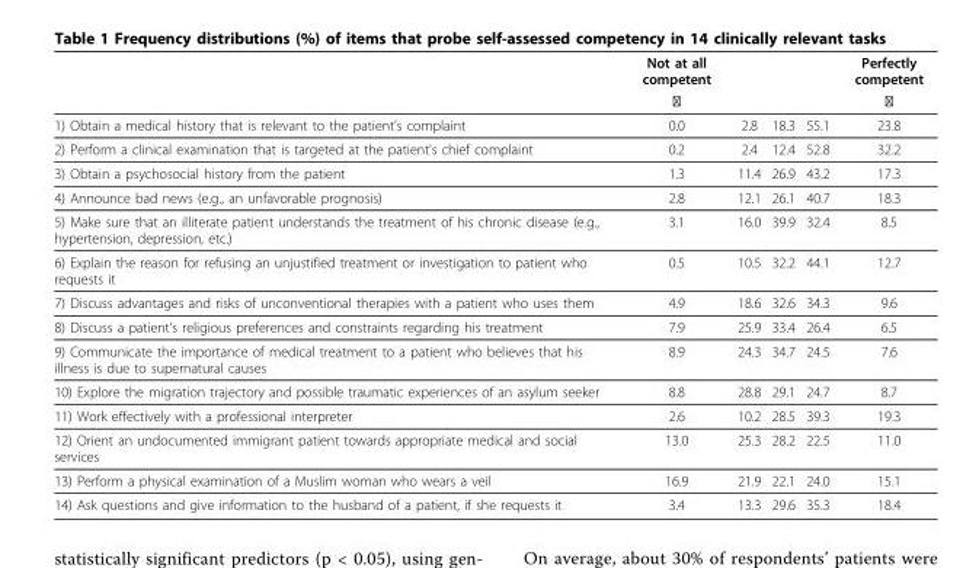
<table><thead><tr><td rowspan="2"></td><td rowspan="2">Not at all competent ⌄</td><td rowspan="2"></td><td rowspan="2"></td><td rowspan="2"></td><td rowspan="2">Perfectly competent ⌄</td></tr><tr></tr></thead><tbody><tr><td>1) Obtain a medical history that is relevant to the patient’s complaint</td><td>0.0</td><td>2.8</td><td>18.3</td><td>55.1</td><td>23.8</td></tr><tr><td>2) Perform a clinical examination that is targeted at the patient’s chief complaint</td><td>0.2</td><td>2.4</td><td>12.4</td><td>52.8</td><td>32.2</td></tr><tr><td>3) Obtain a psychosocial history from the patient</td><td>1.3</td><td>11.4</td><td>26.9</td><td>43.2</td><td>17.3</td></tr><tr><td>4) Announce bad news (e.g., an unfavorable prognosis)</td><td>2.8</td><td>12.1</td><td>26.1</td><td>40.7</td><td>18.3</td></tr><tr><td>5) Make sure that an illiterate patient understands the treatment of his chronic disease (e.g., hypertension, depression, etc.)</td><td>3.1</td><td>16.0</td><td>39.9</td><td>32.4</td><td>8.5</td></tr><tr><td>6) Explain the reason for refusing an unjustified treatment or investigation to patient who requests it</td><td>0.5</td><td>10.5</td><td>32.2</td><td>44.1</td><td>12.7</td></tr><tr><td>7) Discuss advantages and risks of unconventional therapies with a patient who uses them</td><td>4.9</td><td>18.6</td><td>32.6</td><td>34.3</td><td>9.6</td></tr><tr><td>8) Discuss a patient’s religious preferences and constraints regarding his treatment</td><td>7.9</td><td>25.9</td><td>33.4</td><td>26.4</td><td>6.5</td></tr><tr><td>9) Communicate the importance of medical treatment to a patient who believes that his illness is due to supernatural causes</td><td>8.9</td><td>24.3</td><td>34.7</td><td>24.5</td><td>7.6</td></tr><tr><td>10) Explore the migration trajectory and possible traumatic experiences of an asylum seeker</td><td>8.8</td><td>28.8</td><td>29.1</td><td>24.7</td><td>8.7</td></tr><tr><td>11) Work effectively with a professional interpreter</td><td>2.6</td><td>10.2</td><td>28.5</td><td>39.3</td><td>19.3</td></tr><tr><td>12) Orient an undocumented immigrant patient towards appropriate medical and social services</td><td>13.0</td><td>25.3</td><td>28.2</td><td>22.5</td><td>11.0</td></tr><tr><td>13) Perform a physical examination of a Muslim woman who wears a veil</td><td>16.9</td><td>21.9</td><td>22.1</td><td>24.0</td><td>15.1</td></tr><tr><td>14) Ask questions and give information to the husband of a patient, if she requests it</td><td>3.4</td><td>13.3</td><td>29.6</td><td>35.3</td><td>18.4</td></tr></tbody></table>